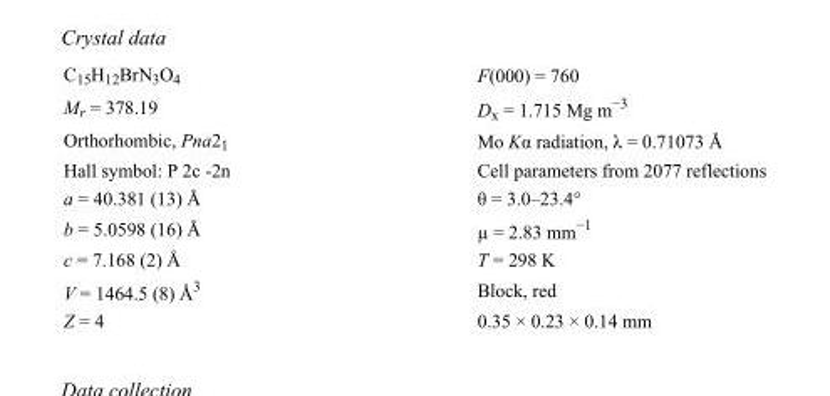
<table><tbody><tr><td>C<sub>15</sub>H<sub>12</sub>BrN<sub>3</sub>O<sub>4</sub></td><td>F(000) = 760</td></tr><tr><td>M<sub>r</sub> = 378.19</td><td>D<sub>x</sub> = 1.715 Mg m<sup>−3</sup></td></tr><tr><td>Orthorhombic, Pna2<sub>1</sub></td><td>Mo Kα radiation, λ = 0.71073 Å</td></tr><tr><td>Hall symbol: P 2c -2n</td><td>Cell parameters from 2077 reflections</td></tr><tr><td>a = 40.381 (13) Å</td><td>θ = 3.0–23.4°</td></tr><tr><td>b = 5.0598 (16) Å</td><td>µ = 2.83 mm<sup>−1</sup></td></tr><tr><td>c = 7.168 (2) Å</td><td>T = 298 K</td></tr><tr><td>V = 1464.5 (8) Å<sup>3</sup></td><td>Block, red</td></tr><tr><td>Z = 4</td><td>0.35 × 0.23 × 0.14 mm</td></tr></tbody></table>